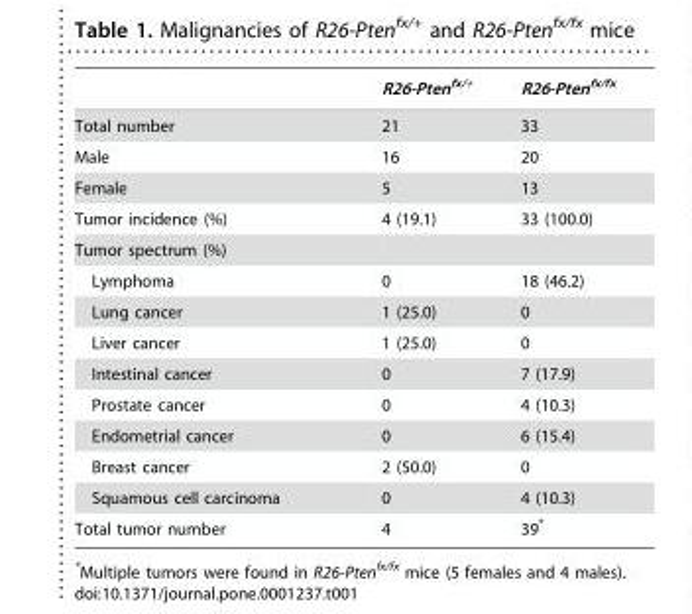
<table><thead><tr><td></td><td>R26-Pten<sup>fx/+</sup></td><td>R26-Pten<sup>fx/fx</sup></td></tr></thead><tbody><tr><td>Total number</td><td>21</td><td>33</td></tr><tr><td>Male</td><td>16</td><td>20</td></tr><tr><td>Female</td><td>5</td><td>13</td></tr><tr><td>Tumor incidence (%)</td><td>4 (19.1)</td><td>33 (100.0)</td></tr><tr><td colspan="3">Tumor spectrum (%)</td></tr><tr><td>Lymphoma</td><td>0</td><td>18 (46.2)</td></tr><tr><td>Lung cancer</td><td>1 (25.0)</td><td>0</td></tr><tr><td>Liver cancer</td><td>1 (25.0)</td><td>0</td></tr><tr><td>Intestinal cancer</td><td>0</td><td>7 (17.9)</td></tr><tr><td>Prostate cancer</td><td>0</td><td>4 (10.3)</td></tr><tr><td>Endometrial cancer</td><td>0</td><td>6 (15.4)</td></tr><tr><td>Breast cancer</td><td>2 (50.0)</td><td>0</td></tr><tr><td>Squamous cell carcinoma</td><td>0</td><td>4 (10.3)</td></tr><tr><td>Total tumor number</td><td>4</td><td>39*</td></tr></tbody></table>